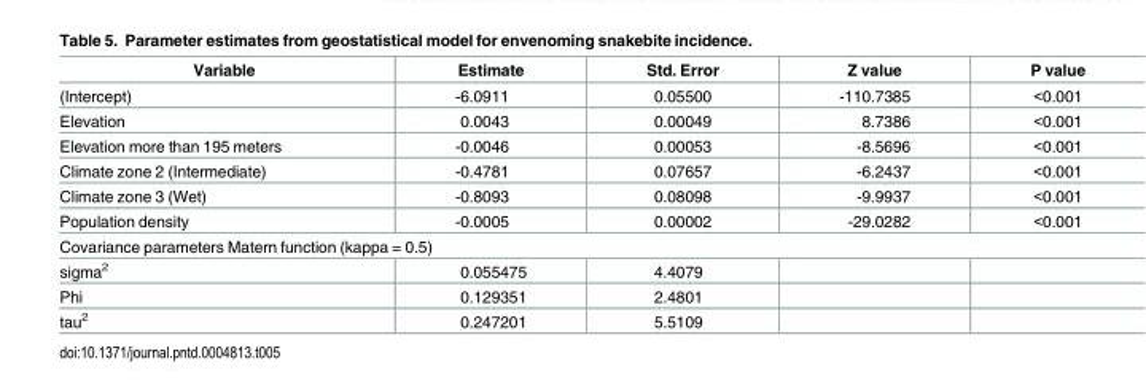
<table><thead><tr><td>Variable</td><td>Estimate</td><td>Std. Error</td><td>Z value</td><td>P value</td></tr></thead><tbody><tr><td>(Intercept)</td><td>-6.0911</td><td>0.05500</td><td>-110.7385</td><td>&lt;0.001</td></tr><tr><td>Elevation</td><td>0.0043</td><td>0.00049</td><td>8.7386</td><td>&lt;0.001</td></tr><tr><td>Elevation more than 195 meters</td><td>-0.0046</td><td>0.00053</td><td>-8.5696</td><td>&lt;0.001</td></tr><tr><td>Climate zone 2 (Intermediate)</td><td>-0.4781</td><td>0.07657</td><td>-6.2437</td><td>&lt;0.001</td></tr><tr><td>Climate zone 3 (Wet)</td><td>-0.8093</td><td>0.08098</td><td>-9.9937</td><td>&lt;0.001</td></tr><tr><td>Population density</td><td>-0.0005</td><td>0.00002</td><td>-29.0282</td><td>&lt;0.001</td></tr><tr><td colspan="5">Covariance parameters Matern function (kappa = 0.5)</td></tr><tr><td>sigma<sup>2</sup></td><td>0.055475</td><td>4.4079</td><td></td><td></td></tr><tr><td>Phi</td><td>0.129351</td><td>2.4801</td><td></td><td></td></tr><tr><td>tau<sup>2</sup></td><td>0.247201</td><td>5.5109</td><td></td><td></td></tr></tbody></table>